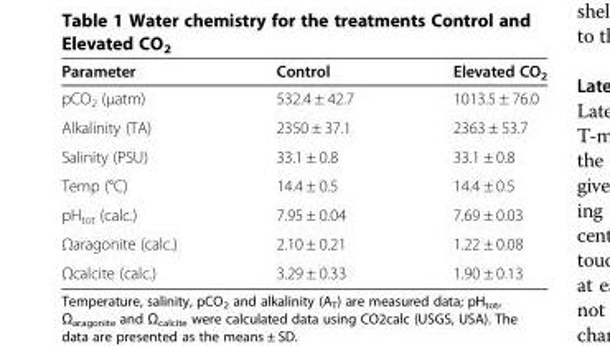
<table><thead><tr><td>Parameter</td><td>Control</td><td>Elevated CO<sub>2</sub></td></tr></thead><tbody><tr><td>pCO<sub>2</sub> (μatm)</td><td>532.4 ± 42.7</td><td>1013.5 ± 76.0</td></tr><tr><td>Alkalinity (TA)</td><td>2350 ± 37.1</td><td>2363 ± 53.7</td></tr><tr><td>Salinity (PSU)</td><td>33.1 ± 0.8</td><td>33.1 ± 0.8</td></tr><tr><td>Temp (°C)</td><td>14.4 ± 0.5</td><td>14.4 ± 0.5</td></tr><tr><td>pH<sub>tot</sub> (calc.)</td><td>7.95 ± 0.04</td><td>7.69 ± 0.03</td></tr><tr><td>Ωaragonite (calc.)</td><td>2.10 ± 0.21</td><td>1.22 ± 0.08</td></tr><tr><td>Ωcalcite (calc.)</td><td>3.29 ± 0.33</td><td>1.90 ± 0.13</td></tr></tbody></table>